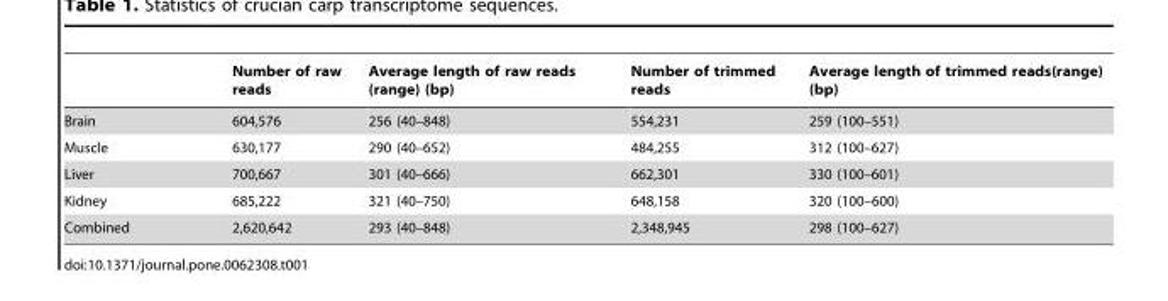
<table><thead><tr><td></td><td>Number of raw reads</td><td>Average length of raw reads (range) (bp)</td><td>Number of trimmed reads</td><td>Average length of trimmed reads(range) (bp)</td></tr></thead><tbody><tr><td>Brain</td><td>604,576</td><td>256 (40–848)</td><td>554,231</td><td>259 (100–551)</td></tr><tr><td>Muscle</td><td>630,177</td><td>290 (40–652)</td><td>484,255</td><td>312 (100–627)</td></tr><tr><td>Liver</td><td>700,667</td><td>301 (40–666)</td><td>662,301</td><td>330 (100–601)</td></tr><tr><td>Kidney</td><td>685,222</td><td>321 (40–750)</td><td>648,158</td><td>320 (100–600)</td></tr><tr><td>Combined</td><td>2,620,642</td><td>293 (40–848)</td><td>2,348,945</td><td>298 (100–627)</td></tr></tbody></table>